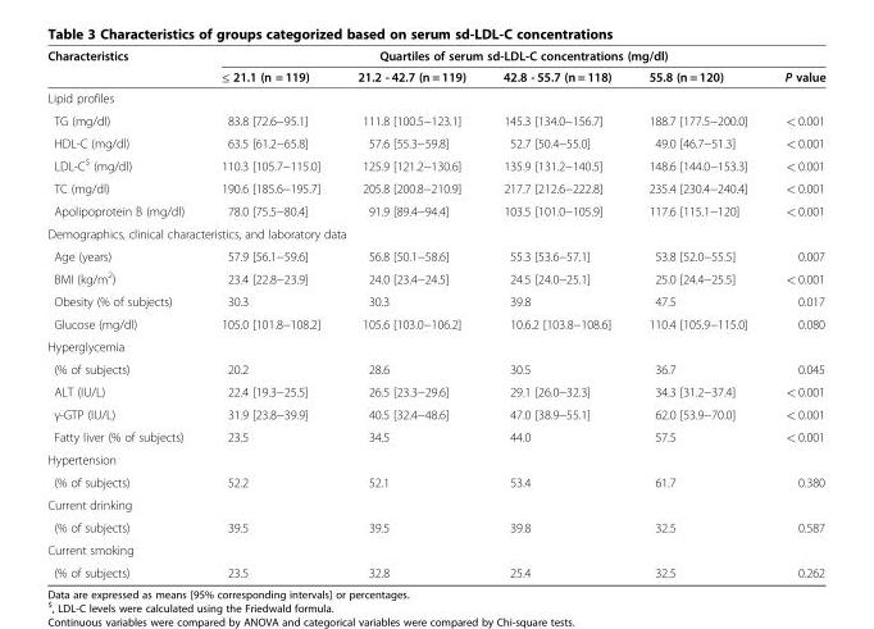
<table><thead><tr><td rowspan="2">Characteristics</td><td colspan="5">Quartiles of serum sd-LDL-C concentrations (mg/dl)</td></tr><tr><td>≤ 21.1 (n = 119)</td><td>21.2 - 42.7 (n = 119)</td><td>42.8 - 55.7 (n = 118)</td><td>55.8 (n = 120)</td><td>P value</td></tr></thead><tbody><tr><td colspan="6">Lipid profiles</td></tr><tr><td>TG (mg/dl)</td><td>83.8 [72.6−95.1]</td><td>111.8 [100.5−123.1]</td><td>145.3 [134.0−156.7]</td><td>188.7 [177.5−200.0]</td><td>&lt; 0.001</td></tr><tr><td>HDL-C (mg/dl)</td><td>63.5 [61.2−65.8]</td><td>57.6 [55.3−59.8]</td><td>52.7 [50.4−55.0]</td><td>49.0 [46.7−51.3]</td><td>&lt; 0.001</td></tr><tr><td>LDL-C<sup>$</sup> (mg/dl)</td><td>110.3 [105.7−115.0]</td><td>125.9 [121.2−130.6]</td><td>135.9 [131.2−140.5]</td><td>148.6 [144.0−153.3]</td><td>&lt; 0.001</td></tr><tr><td>TC (mg/dl)</td><td>190.6 [185.6−195.7]</td><td>205.8 [200.8−210.9]</td><td>217.7 [212.6−222.8]</td><td>235.4 [230.4−240.4]</td><td>&lt; 0.001</td></tr><tr><td>Apolipoprotein B (mg/dl)</td><td>78.0 [75.5−80.4]</td><td>91.9 [89.4−94.4]</td><td>103.5 [101.0−105.9]</td><td>117.6 [115.1−120]</td><td>&lt; 0.001</td></tr><tr><td colspan="6">Demographics, clinical characteristics, and laboratory data</td></tr><tr><td>Age (years)</td><td>57.9 [56.1−59.6]</td><td>56.8 [50.1−58.6]</td><td>55.3 [53.6−57.1]</td><td>53.8 [52.0−55.5]</td><td>0.007</td></tr><tr><td>BMI (kg/m<sup>2</sup>)</td><td>23.4 [22.8−23.9]</td><td>24.0 [23.4−24.5]</td><td>24.5 [24.0−25.1]</td><td>25.0 [24.4−25.5]</td><td>&lt; 0.001</td></tr><tr><td>Obesity (% of subjects)</td><td>30.3</td><td>30.3</td><td>39.8</td><td>47.5</td><td>0.017</td></tr><tr><td>Glucose (mg/dl)</td><td>105.0 [101.8−108.2]</td><td>105.6 [103.0−106.2]</td><td>10.6.2 [103.8−108.6]</td><td>110.4 [105.9−115.0]</td><td>0.080</td></tr><tr><td colspan="6">Hyperglycemia</td></tr><tr><td>(% of subjects)</td><td>20.2</td><td>28.6</td><td>30.5</td><td>36.7</td><td>0.045</td></tr><tr><td>ALT (IU/L)</td><td>22.4 [19.3−25.5]</td><td>26.5 [23.3−29.6]</td><td>29.1 [26.0−32.3]</td><td>34.3 [31.2−37.4]</td><td>&lt; 0.001</td></tr><tr><td>γ-GTP (IU/L)</td><td>31.9 [23.8−39.9]</td><td>40.5 [32.4−48.6]</td><td>47.0 [38.9−55.1]</td><td>62.0 [53.9−70.0]</td><td>&lt; 0.001</td></tr><tr><td>Fatty liver (% of subjects)</td><td>23.5</td><td>34.5</td><td>44.0</td><td>57.5</td><td>&lt; 0.001</td></tr><tr><td colspan="6">Hypertension</td></tr><tr><td>(% of subjects)</td><td>52.2</td><td>52.1</td><td>53.4</td><td>61.7</td><td>0.380</td></tr><tr><td colspan="6">Current drinking</td></tr><tr><td>(% of subjects)</td><td>39.5</td><td>39.5</td><td>39.8</td><td>32.5</td><td>0.587</td></tr><tr><td colspan="6">Current smoking</td></tr><tr><td>(% of subjects)</td><td>23.5</td><td>32.8</td><td>25.4</td><td>32.5</td><td>0.262</td></tr></tbody></table>